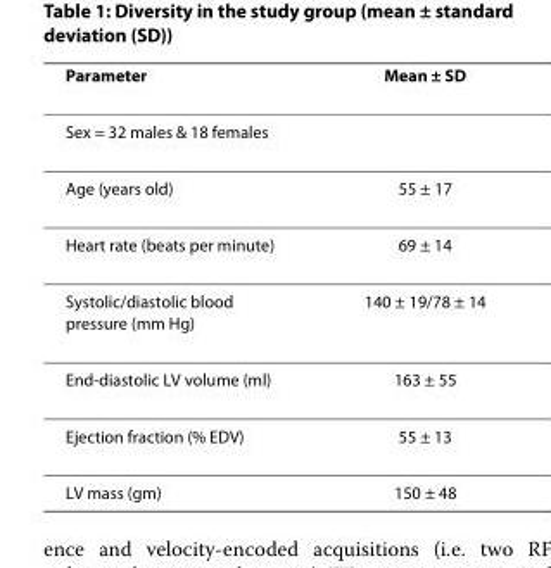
<table><thead><tr><td>Parameter</td><td>Mean ± SD</td></tr></thead><tbody><tr><td colspan="2">Sex = 32 males &amp; 18 females</td></tr><tr><td>Age (years old)</td><td>55 ± 17</td></tr><tr><td>Heart rate (beats per minute)</td><td>69 ± 14</td></tr><tr><td>Systolic/diastolic blood pressure (mm Hg)</td><td>140 ± 19/78 ± 14</td></tr><tr><td>End-diastolic LV volume (ml)</td><td>163 ± 55</td></tr><tr><td>Ejection fraction (% EDV)</td><td>55 ± 13</td></tr><tr><td>LV mass (gm)</td><td>150 ± 48</td></tr></tbody></table>